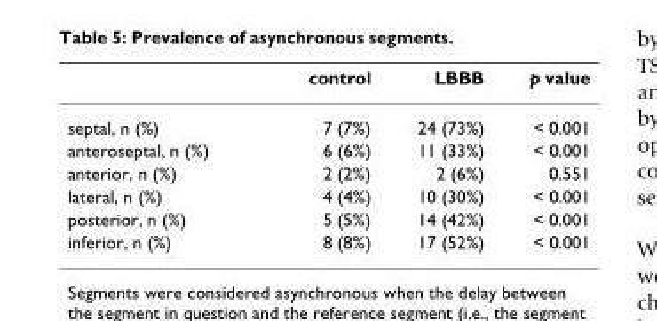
<table><thead><tr><td></td><td>control</td><td>LBBB</td><td>p value</td></tr></thead><tbody><tr><td>septal, n (%)</td><td>7 (7%)</td><td>24 (73%)</td><td>&lt; 0.001</td></tr><tr><td>anteroseptal, n (%)</td><td>6 (6%)</td><td>11 (33%)</td><td>&lt; 0.001</td></tr><tr><td>anterior, n (%)</td><td>2 (2%)</td><td>2 (6%)</td><td>0.551</td></tr><tr><td>lateral, n (%)</td><td>4 (4%)</td><td>10 (30%)</td><td>&lt; 0.001</td></tr><tr><td>posterior, n (%)</td><td>5 (5%)</td><td>14 (42%)</td><td>&lt; 0.001</td></tr><tr><td>inferior, n (%)</td><td>8 (8%)</td><td>17 (52%)</td><td>&lt; 0.001</td></tr></tbody></table>